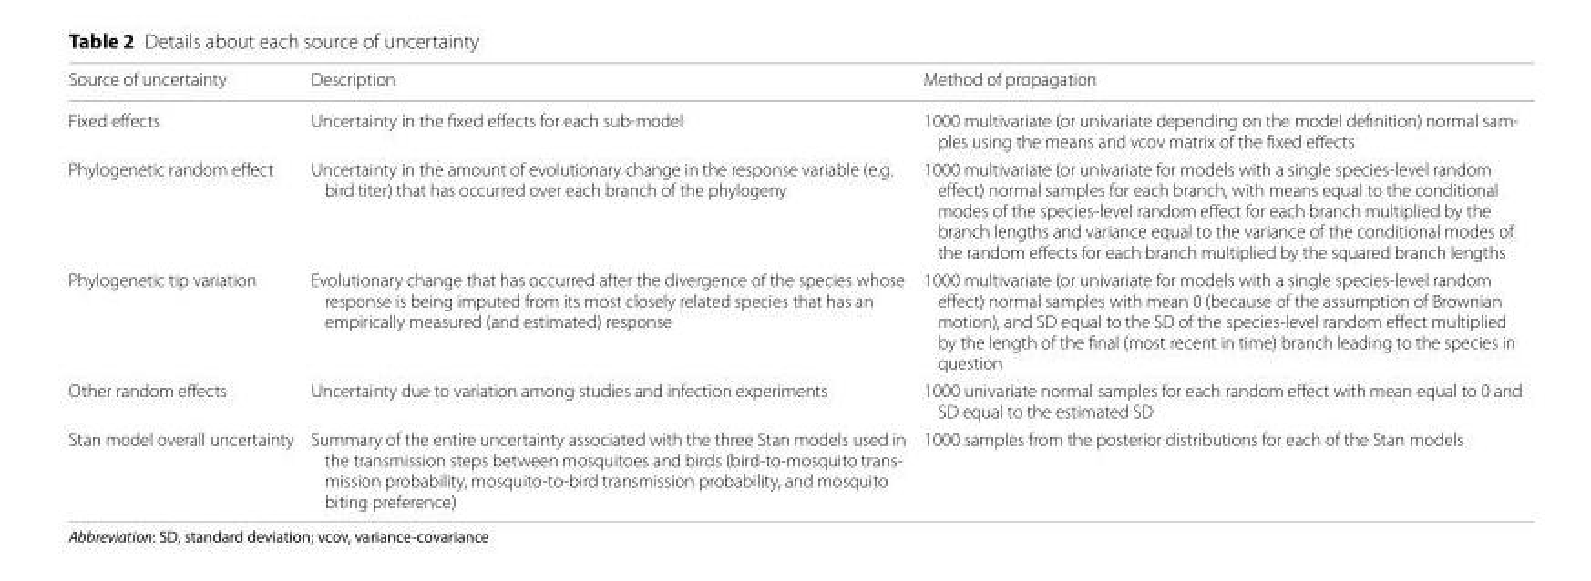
<table><thead><tr><td>Source of uncertainty</td><td>Description</td><td>Method of propagation</td></tr></thead><tbody><tr><td>Fixed effects</td><td>Uncertainty in the fixed effects for each sub-model</td><td>1000 multivariate (or univariate depending on the model definition) normal sam- ples using the means and vcov matrix of the fixed effects</td></tr><tr><td>Phylogenetic random effect</td><td>Uncertainty in the amount of evolutionary change in the response variable (e.g. bird titer) that has occurred over each branch of the phylogeny</td><td>1000 multivariate (or univariate for models with a single species-level random effect) normal samples for each branch, with means equal to the conditional modes of the species-level random effect for each branch multiplied by the branch lengths and variance equal to the variance of the conditional modes of the random effects for each branch multiplied by the squared branch lengths</td></tr><tr><td>Phylogenetic tip variation</td><td>Evolutionary change that has occurred after the divergence of the species whose response is being imputed from its most closely related species that has an empirically measured (and estimated) response</td><td>1000 multivariate (or univariate for models with a single species-level random effect) normal samples with mean 0 (because of the assumption of Brownian motion), and SD equal to the SD of the species-level random effect multiplied by the length of the final (most recent in time) branch leading to the species in question</td></tr><tr><td>Other random effects</td><td>Uncertainty due to variation among studies and infection experiments</td><td>1000 univariate normal samples for each random effect with mean equal to 0 and SD equal to the estimated SD</td></tr><tr><td>Stan model overall uncertainty</td><td>Summary of the entire uncertainty associated with the three Stan models used in the transmission steps between mosquitoes and birds (bird-to-mosquito trans- mission probability, mosquito-to-bird transmission probability, and mosquito biting preference)</td><td>1000 samples from the posterior distributions for each of the Stan models</td></tr></tbody></table>